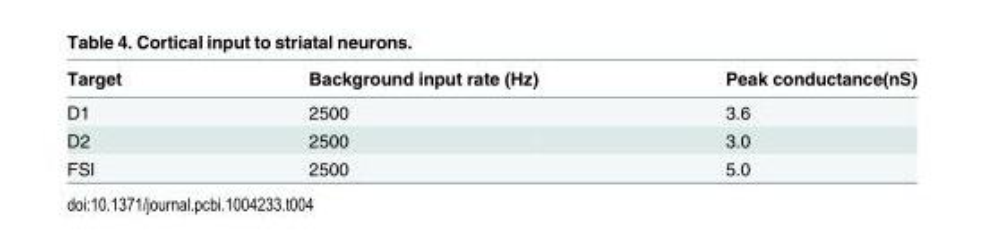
<table><thead><tr><td>Target</td><td>Background input rate (Hz)</td><td>Peak conductance(nS)</td></tr></thead><tbody><tr><td>D1</td><td>2500</td><td>3.6</td></tr><tr><td>D2</td><td>2500</td><td>3.0</td></tr><tr><td>FSI</td><td>2500</td><td>5.0</td></tr></tbody></table>